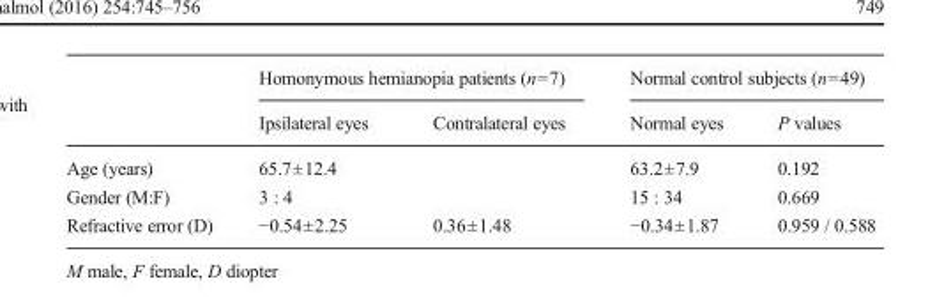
<table><thead><tr><td rowspan="2"></td><td colspan="2">Homonymous hemianopia patients (n=7)</td><td colspan="2">Normal control subjects (n=49)</td></tr><tr><td>Ipsilateral eyes</td><td>Contralateral eyes</td><td>Normal eyes</td><td>P values</td></tr></thead><tbody><tr><td>Age (years)</td><td colspan="2">65.7±12.4</td><td>63.2±7.9</td><td>0.192</td></tr><tr><td>Gender (M:F)</td><td colspan="2">3 : 4</td><td>15 : 34</td><td>0.669</td></tr><tr><td>Refractive error (D)</td><td>−0.54±2.25</td><td>0.36±1.48</td><td>−0.34±1.87</td><td>0.959 / 0.588</td></tr></tbody></table>